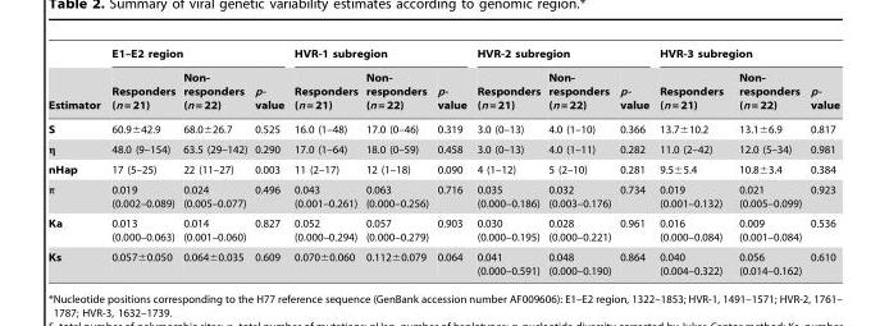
<table><thead><tr><td rowspan="2">Estimator</td><td colspan="3">E1–E2 region</td><td colspan="3">HVR-1 subregion</td><td colspan="3">HVR-2 subregion</td><td colspan="3">HVR-3 subregion</td></tr><tr><td>Responders (n = 21)</td><td>Non- responders (n = 22)</td><td>p- value</td><td>Responders (n = 21)</td><td>Non- responders (n = 22)</td><td>p- value</td><td>Responders (n = 21)</td><td>Non- responders (n = 22)</td><td>p- value</td><td>Responders (n = 21)</td><td>Non- responders (n = 22)</td><td>p- value</td></tr></thead><tbody><tr><td>S</td><td>60.9±42.9</td><td>68.0±26.7</td><td>0.525</td><td>16.0 (1–48)</td><td>17.0 (0–46)</td><td>0.319</td><td>3.0 (0–13)</td><td>4.0 (1–10)</td><td>0.366</td><td>13.7±10.2</td><td>13.1±6.9</td><td>0.817</td></tr><tr><td>η</td><td>48.0 (9–154)</td><td>63.5 (29–142)</td><td>0.290</td><td>17.0 (1–64)</td><td>18.0 (0–59)</td><td>0.458</td><td>3.0 (0–13)</td><td>4.0 (1–11)</td><td>0.282</td><td>11.0 (2–42)</td><td>12.0 (5–34)</td><td>0.981</td></tr><tr><td>nHap</td><td>17 (5–25)</td><td>22 (11–27)</td><td>0.003</td><td>11 (2–17)</td><td>12 (1–18)</td><td>0.090</td><td>4 (1–12)</td><td>5 (2–10)</td><td>0.281</td><td>9.5±5.4</td><td>10.8±3.4</td><td>0.384</td></tr><tr><td>π</td><td>0.019 (0.002–0.089)</td><td>0.024 (0.005–0.077)</td><td>0.496</td><td>0.043 (0.001–0.261)</td><td>0.063 (0.000–0.256)</td><td>0.716</td><td>0.035 (0.000–0.186)</td><td>0.032 (0.003–0.176)</td><td>0.734</td><td>0.019 (0.001–0.132)</td><td>0.021 (0.005–0.099)</td><td>0.923</td></tr><tr><td>Ka</td><td>0.013 (0.000–0.063)</td><td>0.014 (0.001–0.060)</td><td>0.827</td><td>0.052 (0.000–0.294)</td><td>0.057 (0.000–0.279)</td><td>0.903</td><td>0.030 (0.000–0.195)</td><td>0.028 (0.000–0.221)</td><td>0.961</td><td>0.016 (0.000–0.084)</td><td>0.009 (0.001–0.084)</td><td>0.536</td></tr><tr><td>Ks</td><td>0.057±0.050</td><td>0.064±0.035</td><td>0.609</td><td>0.070±0.060</td><td>0.112±0.079</td><td>0.064</td><td>0.041 (0.000–0.591)</td><td>0.048 (0.000–0.190)</td><td>0.864</td><td>0.040 (0.004–0.322)</td><td>0.056 (0.014–0.162)</td><td>0.610</td></tr></tbody></table>